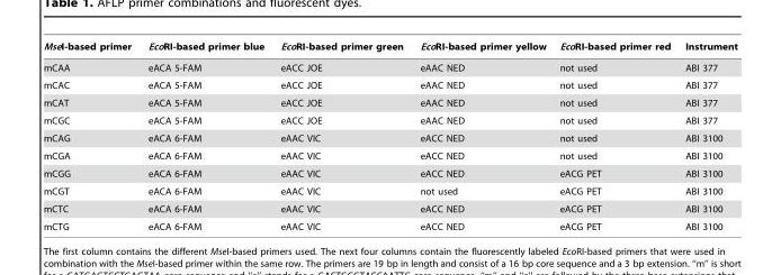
<table><thead><tr><td>MseI-based primer</td><td>EcoRI-based primer blue</td><td>EcoRI-based primer green</td><td>EcoRI-based primer yellow</td><td>EcoRI-based primer red</td><td>Instrument</td></tr></thead><tbody><tr><td>mCAA</td><td>eACA 5-FAM</td><td>eACC JOE</td><td>eAAC NED</td><td>not used</td><td>ABI 377</td></tr><tr><td>mCAC</td><td>eACA 5-FAM</td><td>eACC JOE</td><td>eAAC NED</td><td>not used</td><td>ABI 377</td></tr><tr><td>mCAT</td><td>eACA 5-FAM</td><td>eACC JOE</td><td>eAAC NED</td><td>not used</td><td>ABI 377</td></tr><tr><td>mCGC</td><td>eACA 5-FAM</td><td>eACC JOE</td><td>eAAC NED</td><td>not used</td><td>ABI 377</td></tr><tr><td>mCAG</td><td>eACA 6-FAM</td><td>eAAC VIC</td><td>eACC NED</td><td>not used</td><td>ABI 3100</td></tr><tr><td>mCGA</td><td>eACA 6-FAM</td><td>eAAC VIC</td><td>eACC NED</td><td>not used</td><td>ABI 3100</td></tr><tr><td>mCGG</td><td>eACA 6-FAM</td><td>eAAC VIC</td><td>eACC NED</td><td>eACG PET</td><td>ABI 3100</td></tr><tr><td>mCGT</td><td>eACA 6-FAM</td><td>eAAC VIC</td><td>not used</td><td>eACG PET</td><td>ABI 3100</td></tr><tr><td>mCTC</td><td>eACA 6-FAM</td><td>eAAC VIC</td><td>eACC NED</td><td>eACG PET</td><td>ABI 3100</td></tr><tr><td>mCTG</td><td>eACA 6-FAM</td><td>eAAC VIC</td><td>eACC NED</td><td>eACG PET</td><td>ABI 3100</td></tr></tbody></table>